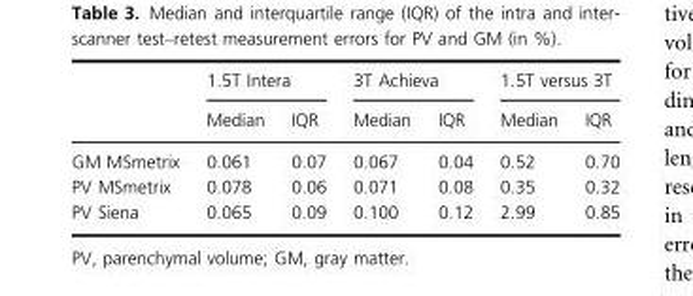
<table><thead><tr><td rowspan="2"></td><td colspan="2">1.5T Intera</td><td colspan="2">3T Achieva</td><td colspan="2">1.5T versus 3T</td></tr><tr><td>Median</td><td>IQR</td><td>Median</td><td>IQR</td><td>Median</td><td>IQR</td></tr></thead><tbody><tr><td>GM MSmetrix</td><td>0.061</td><td>0.07</td><td>0.067</td><td>0.04</td><td>0.52</td><td>0.70</td></tr><tr><td>PV MSmetrix</td><td>0.078</td><td>0.06</td><td>0.071</td><td>0.08</td><td>0.35</td><td>0.32</td></tr><tr><td>PV Siena</td><td>0.065</td><td>0.09</td><td>0.100</td><td>0.12</td><td>2.99</td><td>0.85</td></tr></tbody></table>